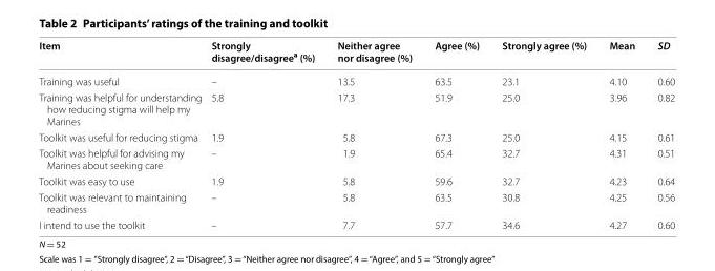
<table><thead><tr><td>Item</td><td>Strongly disagree/disagree<sup>a</sup> (%)</td><td>Neither agree nor disagree (%)</td><td>Agree (%)</td><td>Strongly agree (%)</td><td>Mean</td><td>SD</td></tr></thead><tbody><tr><td>Training was useful</td><td>–</td><td>13.5</td><td>63.5</td><td>23.1</td><td>4.10</td><td>0.60</td></tr><tr><td>Training was helpful for understanding how reducing stigma will help my Marines</td><td>5.8</td><td>17.3</td><td>51.9</td><td>25.0</td><td>3.96</td><td>0.82</td></tr><tr><td>Toolkit was useful for reducing stigma</td><td>1.9</td><td>5.8</td><td>67.3</td><td>25.0</td><td>4.15</td><td>0.61</td></tr><tr><td>Toolkit was helpful for advising my Marines about seeking care</td><td>–</td><td>1.9</td><td>65.4</td><td>32.7</td><td>4.31</td><td>0.51</td></tr><tr><td>Toolkit was easy to use</td><td>1.9</td><td>5.8</td><td>59.6</td><td>32.7</td><td>4.23</td><td>0.64</td></tr><tr><td>Toolkit was relevant to maintaining readiness</td><td>–</td><td>5.8</td><td>63.5</td><td>30.8</td><td>4.25</td><td>0.56</td></tr><tr><td>I intend to use the toolkit</td><td>–</td><td>7.7</td><td>57.7</td><td>34.6</td><td>4.27</td><td>0.60</td></tr></tbody></table>